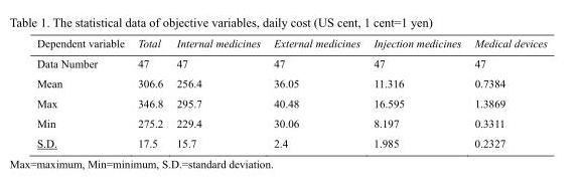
<table><thead><tr><td>Dependent variable</td><td>Total</td><td>Internal medicines</td><td>External medicines</td><td>Injection medicines</td><td>Medical devices</td></tr></thead><tbody><tr><td>Data Number</td><td>47</td><td>47</td><td>47</td><td>47</td><td>47</td></tr><tr><td>Mean</td><td>306.6</td><td>256.4</td><td>36.05</td><td>11.316</td><td>0.7384</td></tr><tr><td>Max</td><td>346.8</td><td>295.7</td><td>40.48</td><td>16.595</td><td>1.3869</td></tr><tr><td>Min</td><td>275.2</td><td>229.4</td><td>30.06</td><td>8.197</td><td>0.3311</td></tr><tr><td>S.D.</td><td>17.5</td><td>15.7</td><td>2.4</td><td>1.985</td><td>0.2327</td></tr></tbody></table>